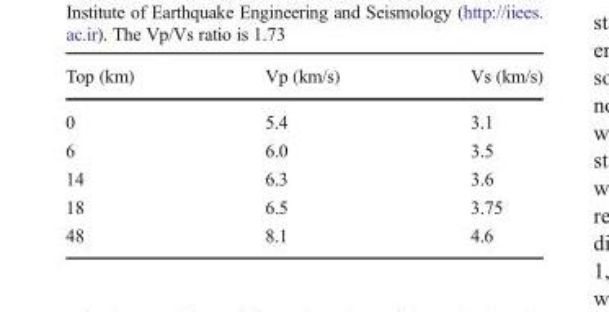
<table><thead><tr><td>Top (km)</td><td>Vp (km/s)</td><td>Vs (km/s)</td></tr></thead><tbody><tr><td>0</td><td>5.4</td><td>3.1</td></tr><tr><td>6</td><td>6.0</td><td>3.5</td></tr><tr><td>14</td><td>6.3</td><td>3.6</td></tr><tr><td>18</td><td>6.5</td><td>3.75</td></tr><tr><td>48</td><td>8.1</td><td>4.6</td></tr></tbody></table>